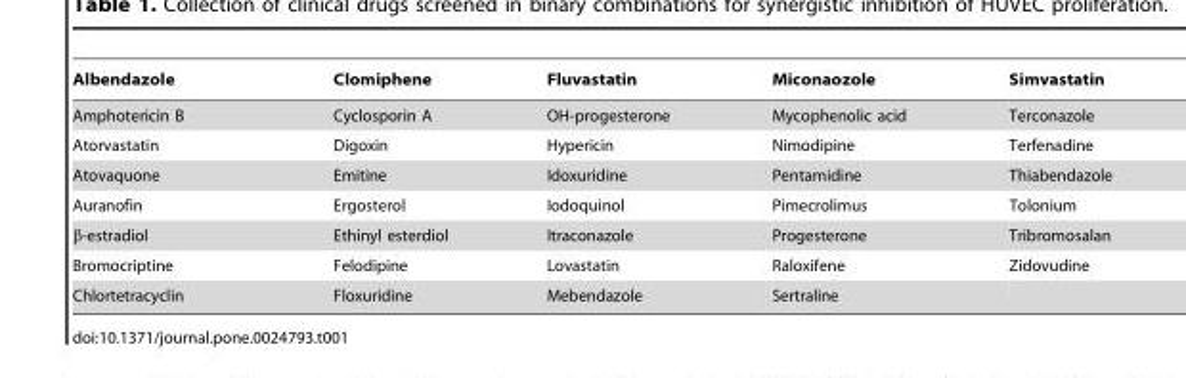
<table><thead><tr><td>Albendazole</td><td>Clomiphene</td><td>Fluvastatin</td><td>Miconaozole</td><td>Simvastatin</td></tr></thead><tbody><tr><td>Amphotericin B</td><td>Cyclosporin A</td><td>OH-progesterone</td><td>Mycophenolic acid</td><td>Terconazole</td></tr><tr><td>Atorvastatin</td><td>Digoxin</td><td>Hypericin</td><td>Nimodipine</td><td>Terfenadine</td></tr><tr><td>Atovaquone</td><td>Emitine</td><td>Idoxuridine</td><td>Pentamidine</td><td>Thiabendazole</td></tr><tr><td>Auranofin</td><td>Ergosterol</td><td>Iodoquinol</td><td>Pimecrolimus</td><td>Tolonium</td></tr><tr><td>β-estradiol</td><td>Ethinyl esterdiol</td><td>Itraconazole</td><td>Progesterone</td><td>Tribromosalan</td></tr><tr><td>Bromocriptine</td><td>Felodipine</td><td>Lovastatin</td><td>Raloxifene</td><td>Zidovudine</td></tr><tr><td>Chlortetracyclin</td><td>Floxuridine</td><td>Mebendazole</td><td>Sertraline</td><td></td></tr></tbody></table>